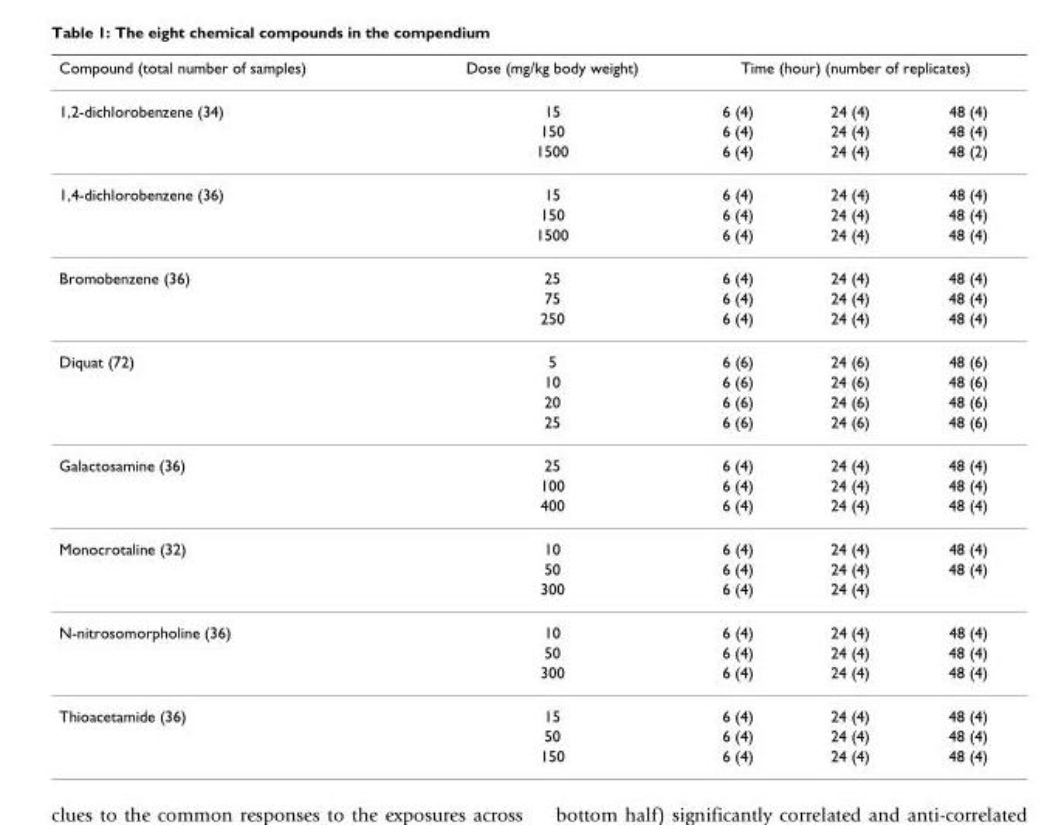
<table><thead><tr><td rowspan="2">Compound (total number of samples) 1,2-dichlorobenzene (34)</td><td rowspan="2">Dose (mg/kg body weight) 15</td><td colspan="3">Time (hour) (number of replicates)</td></tr><tr><td>6 (4)</td><td>24 (4)</td><td>48 (4)</td></tr></thead><tbody><tr><td></td><td>150</td><td>6 (4)</td><td>24 (4)</td><td>48 (4)</td></tr><tr><td></td><td>1500</td><td>6 (4)</td><td>24 (4)</td><td>48 (2)</td></tr><tr><td rowspan="3">1,4-dichlorobenzene (36)</td><td>15</td><td>6 (4)</td><td>24 (4)</td><td>48 (4)</td></tr><tr><td>150</td><td>6 (4)</td><td>24 (4)</td><td>48 (4)</td></tr><tr><td>1500</td><td>6 (4)</td><td>24 (4)</td><td>48 (4)</td></tr><tr><td rowspan="3">Bromobenzene (36)</td><td>25</td><td>6 (4)</td><td>24 (4)</td><td>48 (4)</td></tr><tr><td>75</td><td>6 (4)</td><td>24 (4)</td><td>48 (4)</td></tr><tr><td>250</td><td>6 (4)</td><td>24 (4)</td><td>48 (4)</td></tr><tr><td rowspan="4">Diquat (72)</td><td>5</td><td>6 (6)</td><td>24 (6)</td><td>48 (6)</td></tr><tr><td>10</td><td>6 (6)</td><td>24 (6)</td><td>48 (6)</td></tr><tr><td>20</td><td>6 (6)</td><td>24 (6)</td><td>48 (6)</td></tr><tr><td>25</td><td>6 (6)</td><td>24 (6)</td><td>48 (6)</td></tr><tr><td rowspan="3">Galactosamine (36)</td><td>25</td><td>6 (4)</td><td>24 (4)</td><td>48 (4)</td></tr><tr><td>100</td><td>6 (4)</td><td>24 (4)</td><td>48 (4)</td></tr><tr><td>400</td><td>6 (4)</td><td>24 (4)</td><td>48 (4)</td></tr><tr><td rowspan="3">Monocrotaline (32)</td><td>10</td><td>6 (4)</td><td>24 (4)</td><td>48 (4)</td></tr><tr><td>50</td><td>6 (4)</td><td>24 (4)</td><td>48 (4)</td></tr><tr><td>300</td><td>6 (4)</td><td>24 (4)</td><td></td></tr><tr><td rowspan="3">N-nitrosomorpholine (36)</td><td>10</td><td>6 (4)</td><td>24 (4)</td><td>48 (4)</td></tr><tr><td>50</td><td>6 (4)</td><td>24 (4)</td><td>48 (4)</td></tr><tr><td>300</td><td>6 (4)</td><td>24 (4)</td><td>48 (4)</td></tr><tr><td rowspan="3">Thioacetamide (36)</td><td>15</td><td>6 (4)</td><td>24 (4)</td><td>48 (4)</td></tr><tr><td>50</td><td>6 (4)</td><td>24 (4)</td><td>48 (4)</td></tr><tr><td>150</td><td>6 (4)</td><td>24 (4)</td><td>48 (4)</td></tr></tbody></table>